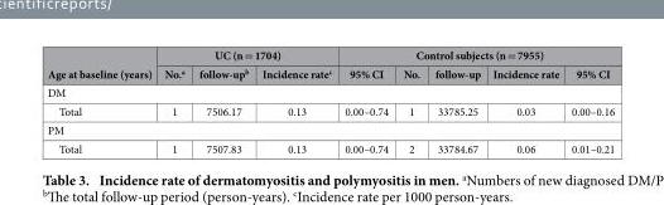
<table><thead><tr><td rowspan="2">Age at baseline (years)</td><td colspan="3">UC (n = 1704)</td><td colspan="5">Control subjects (n = 7955)</td></tr><tr><td>No.<sup>a</sup></td><td>follow-up<sup>b</sup></td><td>Incidence rate<sup>c</sup></td><td>95% CI</td><td>No.</td><td>follow-up</td><td>Incidence rate</td><td>95% CI</td></tr></thead><tbody><tr><td colspan="9">DM</td></tr><tr><td>Total</td><td>1</td><td>7506.17</td><td>0.13</td><td>0.00–0.74</td><td>1</td><td>33785.25</td><td>0.03</td><td>0.00–0.16</td></tr><tr><td colspan="9">PM</td></tr><tr><td>Total</td><td>1</td><td>7507.83</td><td>0.13</td><td>0.00–0.74</td><td>2</td><td>33784.67</td><td>0.06</td><td>0.01–0.21</td></tr></tbody></table>